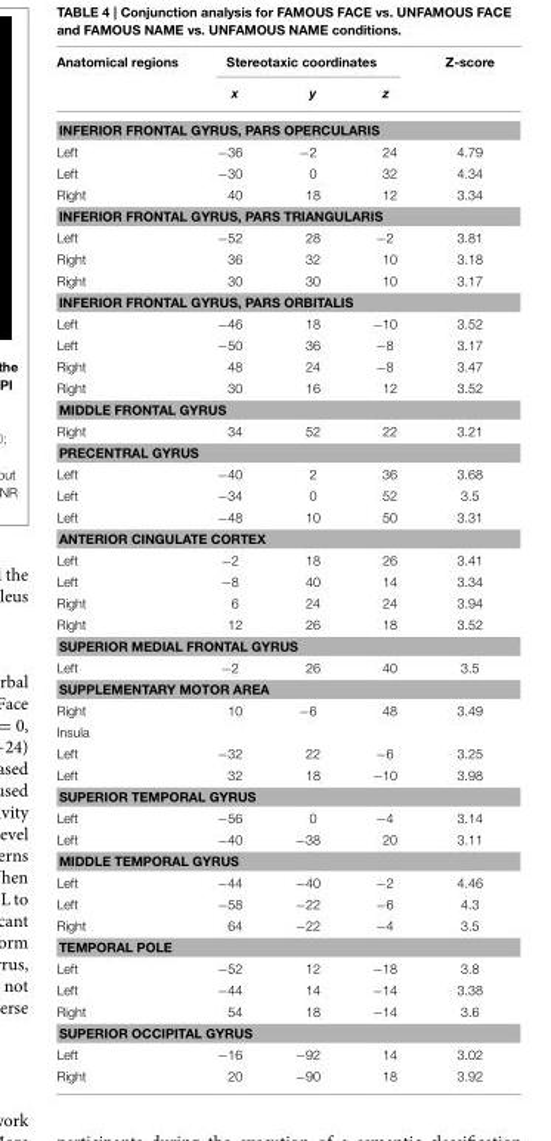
<table><thead><tr><td rowspan="2">Anatomical regions</td><td colspan="3">Stereotaxic coordinates</td><td rowspan="2">Z-score</td></tr><tr><td>x</td><td>y</td><td>z</td></tr></thead><tbody><tr><td colspan="5">INFERIOR FRONTAL GYRUS, PARS OPERCULARIS</td></tr><tr><td>Left</td><td>−36</td><td>−2</td><td>24</td><td>4.79</td></tr><tr><td>Left</td><td>−30</td><td>0</td><td>32</td><td>4.34</td></tr><tr><td>Right</td><td>40</td><td>18</td><td>12</td><td>3.34</td></tr><tr><td colspan="5">INFERIOR FRONTAL GYRUS, PARS TRIANGULARIS</td></tr><tr><td>Left</td><td>−52</td><td>28</td><td>−2</td><td>3.81</td></tr><tr><td>Right</td><td>36</td><td>32</td><td>10</td><td>3.18</td></tr><tr><td>Right</td><td>30</td><td>30</td><td>10</td><td>3.17</td></tr><tr><td colspan="5">INFERIOR FRONTAL GYRUS, PARS ORBITALIS</td></tr><tr><td>Left</td><td>−46</td><td>18</td><td>−10</td><td>3.52</td></tr><tr><td>Left</td><td>−50</td><td>36</td><td>−8</td><td>3.17</td></tr><tr><td>Right</td><td>48</td><td>24</td><td>−8</td><td>3.47</td></tr><tr><td>Right</td><td>30</td><td>16</td><td>12</td><td>3.52</td></tr><tr><td colspan="5">MIDDLE FRONTAL GYRUS</td></tr><tr><td>Right</td><td>34</td><td>52</td><td>22</td><td>3.21</td></tr><tr><td colspan="5">PRECENTRAL GYRUS</td></tr><tr><td>Left</td><td>−40</td><td>2</td><td>36</td><td>3.68</td></tr><tr><td>Left</td><td>−34</td><td>0</td><td>52</td><td>3.5</td></tr><tr><td>Left</td><td>−48</td><td>10</td><td>50</td><td>3.31</td></tr><tr><td colspan="5">ANTERIOR CINGULATE CORTEX</td></tr><tr><td>Left</td><td>−2</td><td>18</td><td>26</td><td>3.41</td></tr><tr><td>Left</td><td>−8</td><td>40</td><td>14</td><td>3.34</td></tr><tr><td>Right</td><td>6</td><td>24</td><td>24</td><td>3.94</td></tr><tr><td>Right</td><td>12</td><td>26</td><td>18</td><td>3.52</td></tr><tr><td colspan="5">SUPERIOR MEDIAL FRONTAL GYRUS</td></tr><tr><td>Left</td><td>−2</td><td>26</td><td>40</td><td>3.5</td></tr><tr><td colspan="5">SUPPLEMENTARY MOTOR AREA</td></tr><tr><td>Right</td><td>10</td><td>−6</td><td>48</td><td>3.49</td></tr><tr><td colspan="5">Insula</td></tr><tr><td>Left</td><td>−32</td><td>22</td><td>−6</td><td>3.25</td></tr><tr><td>Left</td><td>32</td><td>18</td><td>−10</td><td>3.98</td></tr><tr><td colspan="5">SUPERIOR TEMPORAL GYRUS</td></tr><tr><td>Left</td><td>−56</td><td>0</td><td>−4</td><td>3.14</td></tr><tr><td>Left</td><td>−40</td><td>−38</td><td>20</td><td>3.11</td></tr><tr><td colspan="5">MIDDLE TEMPORAL GYRUS</td></tr><tr><td>Left</td><td>−44</td><td>−40</td><td>−2</td><td>4.46</td></tr><tr><td>Left</td><td>−58</td><td>−22</td><td>−6</td><td>4.3</td></tr><tr><td>Right</td><td>64</td><td>−22</td><td>−4</td><td>3.5</td></tr><tr><td colspan="5">TEMPORAL POLE</td></tr><tr><td>Left</td><td>−52</td><td>12</td><td>−18</td><td>3.8</td></tr><tr><td>Left</td><td>−44</td><td>14</td><td>−14</td><td>3.38</td></tr><tr><td>Right</td><td>54</td><td>18</td><td>−14</td><td>3.6</td></tr><tr><td colspan="5">SUPERIOR OCCIPITAL GYRUS</td></tr><tr><td>Left</td><td>−16</td><td>−92</td><td>14</td><td>3.02</td></tr><tr><td>Right</td><td>20</td><td>−90</td><td>18</td><td>3.92</td></tr></tbody></table>